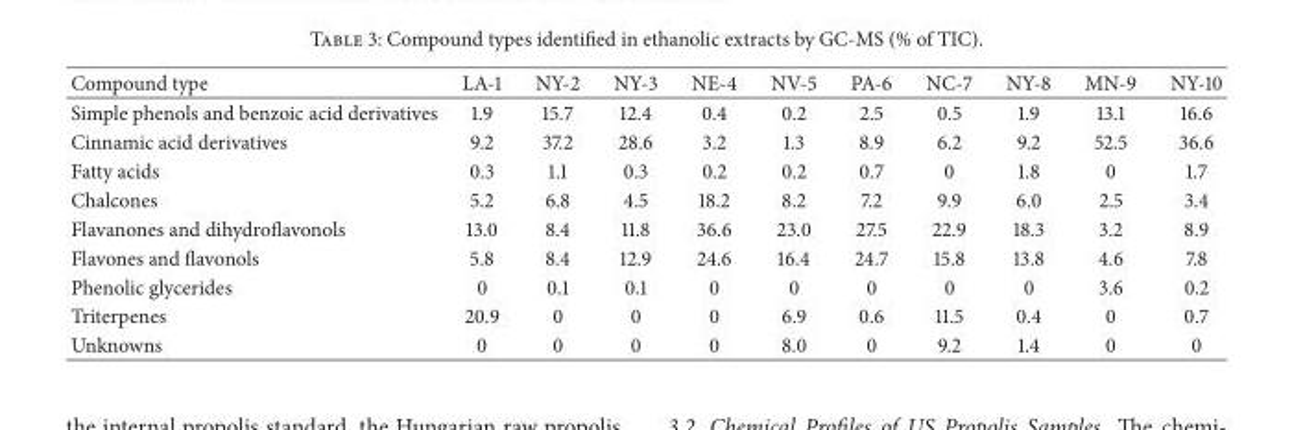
<table><thead><tr><td>Compound type</td><td>LA-1</td><td>NY-2</td><td>NY-3</td><td>NE-4</td><td>NV-5</td><td>PA-6</td><td>NC-7</td><td>NY-8</td><td>MN-9</td><td>NY-10</td></tr></thead><tbody><tr><td>Simple phenols and benzoic acid derivatives</td><td>1.9</td><td>15.7</td><td>12.4</td><td>0.4</td><td>0.2</td><td>2.5</td><td>0.5</td><td>1.9</td><td>13.1</td><td>16.6</td></tr><tr><td>Cinnamic acid derivatives</td><td>9.2</td><td>37.2</td><td>28.6</td><td>3.2</td><td>1.3</td><td>8.9</td><td>6.2</td><td>9.2</td><td>52.5</td><td>36.6</td></tr><tr><td>Fatty acids</td><td>0.3</td><td>1.1</td><td>0.3</td><td>0.2</td><td>0.2</td><td>0.7</td><td>0</td><td>1.8</td><td>0</td><td>1.7</td></tr><tr><td>Chalcones</td><td>5.2</td><td>6.8</td><td>4.5</td><td>18.2</td><td>8.2</td><td>7.2</td><td>9.9</td><td>6.0</td><td>2.5</td><td>3.4</td></tr><tr><td>Flavanones and dihydroflavonols</td><td>13.0</td><td>8.4</td><td>11.8</td><td>36.6</td><td>23.0</td><td>27.5</td><td>22.9</td><td>18.3</td><td>3.2</td><td>8.9</td></tr><tr><td>Flavones and flavonols</td><td>5.8</td><td>8.4</td><td>12.9</td><td>24.6</td><td>16.4</td><td>24.7</td><td>15.8</td><td>13.8</td><td>4.6</td><td>7.8</td></tr><tr><td>Phenolic glycerides</td><td>0</td><td>0.1</td><td>0.1</td><td>0</td><td>0</td><td>0</td><td>0</td><td>0</td><td>3.6</td><td>0.2</td></tr><tr><td>Triterpenes</td><td>20.9</td><td>0</td><td>0</td><td>0</td><td>6.9</td><td>0.6</td><td>11.5</td><td>0.4</td><td>0</td><td>0.7</td></tr><tr><td>Unknowns</td><td>0</td><td>0</td><td>0</td><td>0</td><td>8.0</td><td>0</td><td>9.2</td><td>1.4</td><td>0</td><td>0</td></tr></tbody></table>